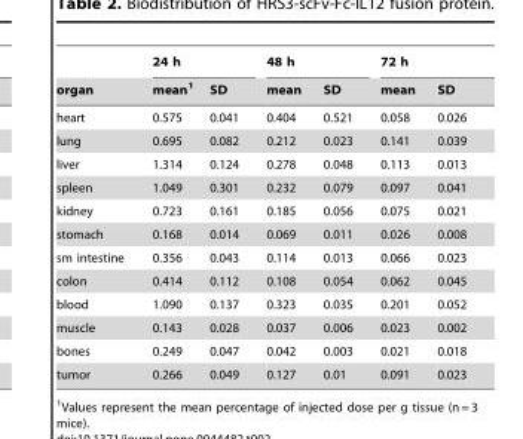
<table><thead><tr><td rowspan="2">organ</td><td colspan="2">24 h</td><td colspan="2">48 h</td><td colspan="2">72 h</td></tr><tr><td>mean<sup>1</sup></td><td>SD</td><td>mean</td><td>SD</td><td>mean</td><td>SD</td></tr></thead><tbody><tr><td>heart</td><td>0.575</td><td>0.041</td><td>0.404</td><td>0.521</td><td>0.058</td><td>0.026</td></tr><tr><td>lung</td><td>0.695</td><td>0.082</td><td>0.212</td><td>0.023</td><td>0.141</td><td>0.039</td></tr><tr><td>liver</td><td>1.314</td><td>0.124</td><td>0.278</td><td>0.048</td><td>0.113</td><td>0.013</td></tr><tr><td>spleen</td><td>1.049</td><td>0.301</td><td>0.232</td><td>0.079</td><td>0.097</td><td>0.041</td></tr><tr><td>kidney</td><td>0.723</td><td>0.161</td><td>0.185</td><td>0.056</td><td>0.075</td><td>0.021</td></tr><tr><td>stomach</td><td>0.168</td><td>0.014</td><td>0.069</td><td>0.011</td><td>0.026</td><td>0.008</td></tr><tr><td>sm intestine</td><td>0.356</td><td>0.043</td><td>0.114</td><td>0.013</td><td>0.066</td><td>0.023</td></tr><tr><td>colon</td><td>0.414</td><td>0.112</td><td>0.108</td><td>0.054</td><td>0.062</td><td>0.045</td></tr><tr><td>blood</td><td>1.090</td><td>0.137</td><td>0.323</td><td>0.035</td><td>0.201</td><td>0.052</td></tr><tr><td>muscle</td><td>0.143</td><td>0.028</td><td>0.037</td><td>0.006</td><td>0.023</td><td>0.002</td></tr><tr><td>bones</td><td>0.249</td><td>0.047</td><td>0.042</td><td>0.003</td><td>0.021</td><td>0.018</td></tr><tr><td>tumor</td><td>0.266</td><td>0.049</td><td>0.127</td><td>0.01</td><td>0.091</td><td>0.023</td></tr></tbody></table>